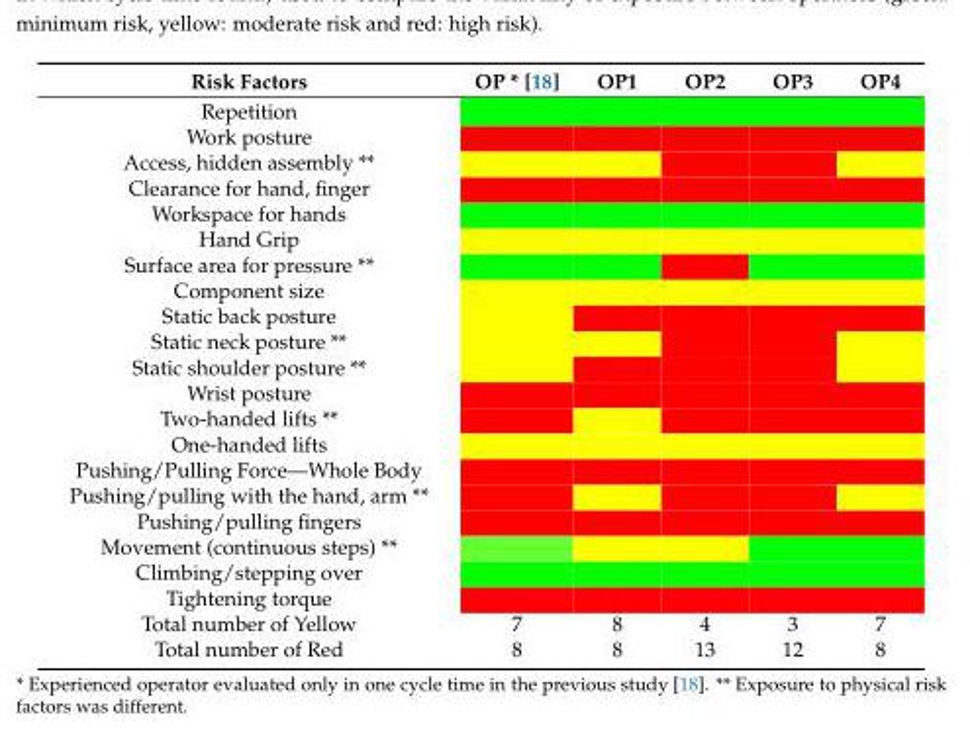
<table><thead><tr><td>Risk Factors</td><td>OP * [18]</td><td>OP1</td><td>OP2</td><td>OP3</td><td>OP4</td></tr></thead><tbody><tr><td colspan="6">Repetition</td></tr><tr><td colspan="6">Work posture</td></tr><tr><td colspan="6">Access, hidden assembly **</td></tr><tr><td colspan="6">Clearance for hand, finger</td></tr><tr><td colspan="6">Workspace for hands</td></tr><tr><td colspan="6">Hand Grip</td></tr><tr><td colspan="6">Surface area for pressure **</td></tr><tr><td colspan="6">Component size</td></tr><tr><td colspan="6">Static back posture</td></tr><tr><td colspan="6">Static neck posture **</td></tr><tr><td colspan="6">Static shoulder posture **</td></tr><tr><td colspan="6">Wrist posture</td></tr><tr><td colspan="6">Two-handed lifts **</td></tr><tr><td colspan="6">One-handed lifts</td></tr><tr><td colspan="6">Pushing/Pulling Force—Whole Body</td></tr><tr><td colspan="6">Pushing/pulling with the hand, arm **</td></tr><tr><td colspan="6">Pushing/pulling fingers</td></tr><tr><td colspan="6">Movement (continuous steps) **</td></tr><tr><td colspan="6">Climbing/stepping over</td></tr><tr><td colspan="6">Tightening torque</td></tr><tr><td>Total number of Yellow</td><td>7</td><td>8</td><td>4</td><td>3</td><td>7</td></tr><tr><td>Total number of Red</td><td>8</td><td>8</td><td>13</td><td>12</td><td>8</td></tr></tbody></table>